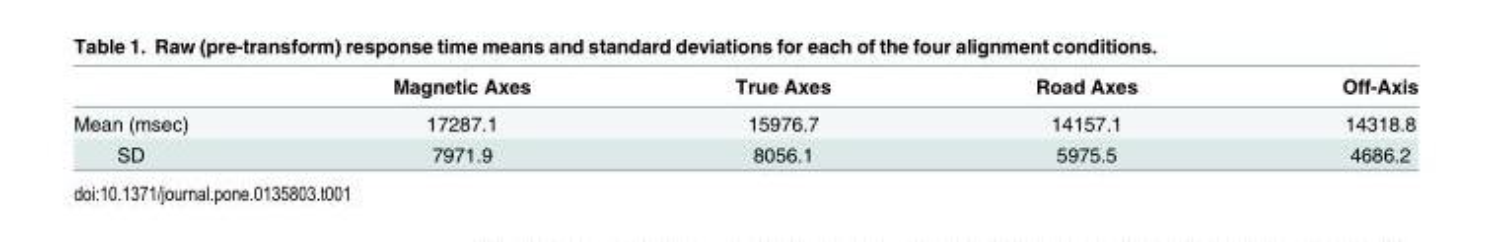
<table><thead><tr><td></td><td>Magnetic Axes</td><td>True Axes</td><td>Road Axes</td><td>Off-Axis</td></tr></thead><tbody><tr><td>Mean (msec)</td><td>17287.1</td><td>15976.7</td><td>14157.1</td><td>14318.8</td></tr><tr><td>SD</td><td>7971.9</td><td>8056.1</td><td>5975.5</td><td>4686.2</td></tr></tbody></table>